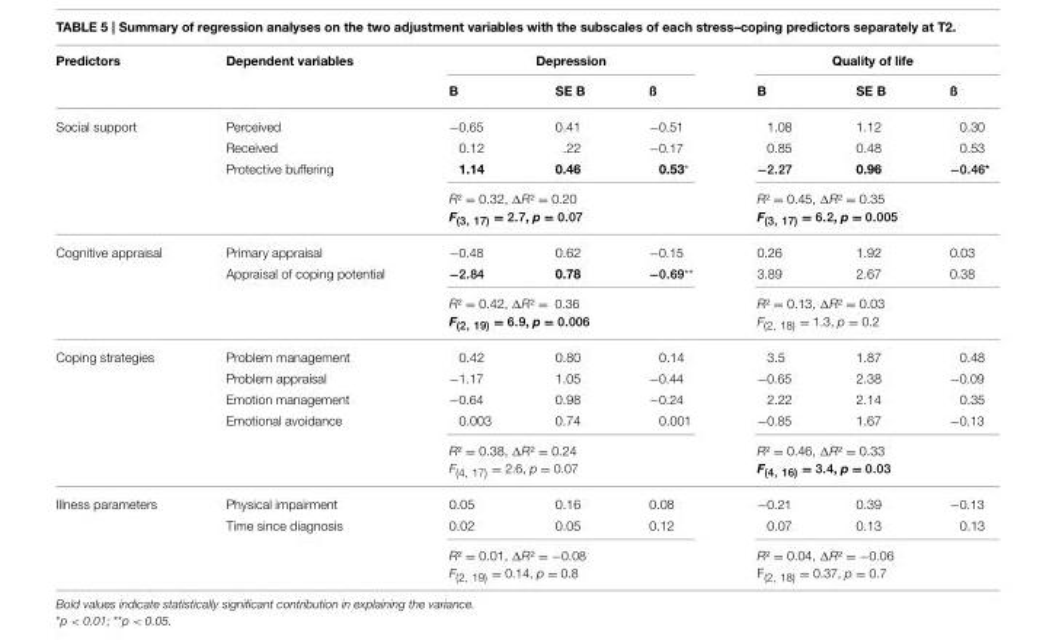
<table><thead><tr><td rowspan="2">Predictors</td><td rowspan="2">Dependent variables</td><td colspan="3">Depression</td><td colspan="3">Quality of life</td></tr><tr><td>B</td><td>SE B</td><td>ß</td><td>B</td><td>SE B</td><td>ß</td></tr></thead><tbody><tr><td rowspan="4">Social support</td><td>Perceived</td><td>−0.65</td><td>0.41</td><td>−0.51</td><td>1.08</td><td>1.12</td><td>0.30</td></tr><tr><td>Received</td><td>0.12</td><td>.22</td><td>−0.17</td><td>0.85</td><td>0.48</td><td>0.53</td></tr><tr><td>Protective buffering</td><td>1.14</td><td>0.46</td><td>0.53*</td><td>−2.27</td><td>0.96</td><td>−0.46*</td></tr><tr><td></td><td colspan="3">R² = 0.32, ΔR² = 0.20 F<sub>(3, 17)</sub> = 2.7, p = 0.07</td><td colspan="3">R² = 0.45, ΔR² = 0.35 F<sub>(3, 17)</sub> = 6.2, p = 0.005</td></tr><tr><td rowspan="3">Cognitive appraisal</td><td>Primary appraisal</td><td>−0.48</td><td>0.62</td><td>−0.15</td><td>0.26</td><td>1.92</td><td>0.03</td></tr><tr><td>Appraisal of coping potential</td><td>−2.84</td><td>0.78</td><td>−0.69**</td><td>3.89</td><td>2.67</td><td>0.38</td></tr><tr><td></td><td colspan="3">R² = 0.42, ΔR² = 0.36 F<sub>(2, 19)</sub> = 6.9, p = 0.006</td><td colspan="3">R² = 0.13, ΔR² = 0.03 F<sub>(2, 18)</sub> = 1.3, p = 0.2</td></tr><tr><td rowspan="5">Coping strategies</td><td>Problem management</td><td>0.42</td><td>0.80</td><td>0.14</td><td>3.5</td><td>1.87</td><td>0.48</td></tr><tr><td>Problem appraisal</td><td>−1.17</td><td>1.05</td><td>−0.44</td><td>−0.65</td><td>2.38</td><td>−0.09</td></tr><tr><td>Emotion management</td><td>−0.64</td><td>0.98</td><td>−0.24</td><td>2.22</td><td>2.14</td><td>0.35</td></tr><tr><td>Emotional avoidance</td><td>0.003</td><td>0.74</td><td>0.001</td><td>−0.85</td><td>1.67</td><td>−0.13</td></tr><tr><td></td><td colspan="3">R² = 0.38, ΔR² = 0.24 F<sub>(4, 17)</sub> = 2.6, p = 0.07</td><td colspan="3">R² = 0.46, ΔR² = 0.33 F<sub>(4, 16)</sub> = 3.4, p = 0.03</td></tr><tr><td rowspan="3">Illness parameters</td><td>Physical impairment</td><td>0.05</td><td>0.16</td><td>0.08</td><td>−0.21</td><td>0.39</td><td>−0.13</td></tr><tr><td>Time since diagnosis</td><td>0.02</td><td>0.05</td><td>0.12</td><td>0.07</td><td>0.13</td><td>0.13</td></tr><tr><td></td><td colspan="3">R² = 0.01, ΔR² = −0.08 F<sub>(2, 19)</sub> = 0.14, p = 0.8</td><td colspan="3">R² = 0.04, ΔR² = −0.06 F<sub>(2, 18)</sub> = 0.37, p = 0.7</td></tr></tbody></table>